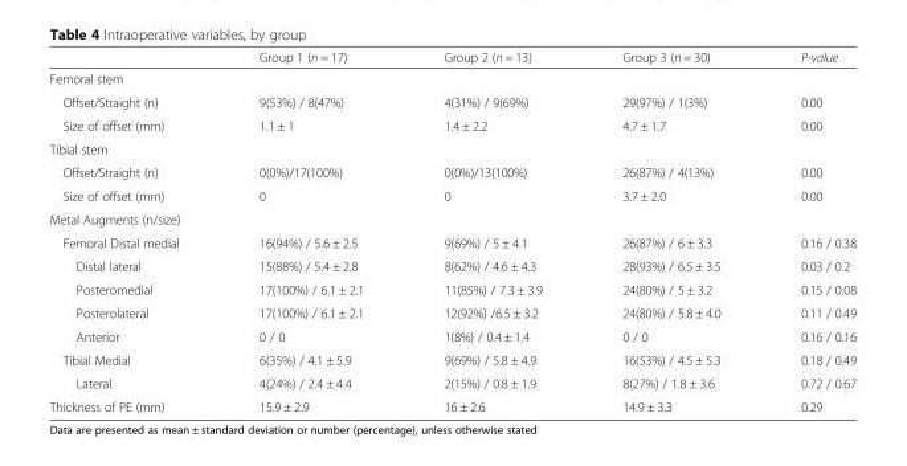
<table><thead><tr><td></td><td>Group 1 (n = 17)</td><td>Group 2 (n = 13)</td><td>Group 3 (n = 30)</td><td>P-value</td></tr></thead><tbody><tr><td colspan="5">Femoral stem</td></tr><tr><td>Offset/Straight (n)</td><td>9(53%) / 8(47%)</td><td>4(31%) / 9(69%)</td><td>29(97%) / 1(3%)</td><td>0.00</td></tr><tr><td>Size of offset (mm)</td><td>1.1 ± 1</td><td>1.4 ± 2.2</td><td>4.7 ± 1.7</td><td>0.00</td></tr><tr><td colspan="5">Tibial stem</td></tr><tr><td>Offset/Straight (n)</td><td>0(0%)/17(100%)</td><td>0(0%)/13(100%)</td><td>26(87%) / 4(13%)</td><td>0.00</td></tr><tr><td>Size of offset (mm)</td><td>0</td><td>0</td><td>3.7 ± 2.0</td><td>0.00</td></tr><tr><td colspan="5">Metal Augments (n/size)</td></tr><tr><td>Femoral Distal medial</td><td>16(94%) / 5.6 ± 2.5</td><td>9(69%) / 5 ± 4.1</td><td>26(87%) / 6 ± 3.3</td><td>0.16 / 0.38</td></tr><tr><td>Distal lateral</td><td>15(88%) / 5.4 ± 2.8</td><td>8(62%) / 4.6 ± 4.3</td><td>28(93%) / 6.5 ± 3.5</td><td>0.03 / 0.2</td></tr><tr><td>Posteromedial</td><td>17(100%) / 6.1 ± 2.1</td><td>11(85%) / 7.3 ± 3.9</td><td>24(80%) / 5 ± 3.2</td><td>0.15 / 0.08</td></tr><tr><td>Posterolateral</td><td>17(100%) / 6.1 ± 2.1</td><td>12(92%) /6.5 ± 3.2</td><td>24(80%) / 5.8 ± 4.0</td><td>0.11 / 0.49</td></tr><tr><td>Anterior</td><td>0 / 0</td><td>1(8%) / 0.4 ± 1.4</td><td>0 / 0</td><td>0.16 / 0.16</td></tr><tr><td>Tibial Medial</td><td>6(35%) / 4.1 ± 5.9</td><td>9(69%) / 5.8 ± 4.9</td><td>16(53%) / 4.5 ± 5.3</td><td>0.18 / 0.49</td></tr><tr><td>Lateral</td><td>4(24%) / 2.4 ± 4.4</td><td>2(15%) / 0.8 ± 1.9</td><td>8(27%) / 1.8 ± 3.6</td><td>0.72 / 0.67</td></tr><tr><td>Thickness of PE (mm)</td><td>15.9 ± 2.9</td><td>16 ± 2.6</td><td>14.9 ± 3.3</td><td>0.29</td></tr></tbody></table>